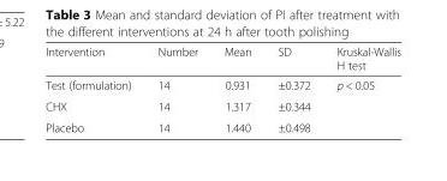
<table><thead><tr><td>Intervention</td><td>Number</td><td>Mean</td><td>SD</td><td>Kruskal-Wallis H test</td></tr></thead><tbody><tr><td>Test (formulation)</td><td>14</td><td>0.931</td><td>±0.372</td><td rowspan="3">p &lt; 0.05</td></tr><tr><td>CHX</td><td>14</td><td>1.317</td><td>±0.344</td></tr><tr><td>Placebo</td><td>14</td><td>1.440</td><td>±0.498</td></tr></tbody></table>